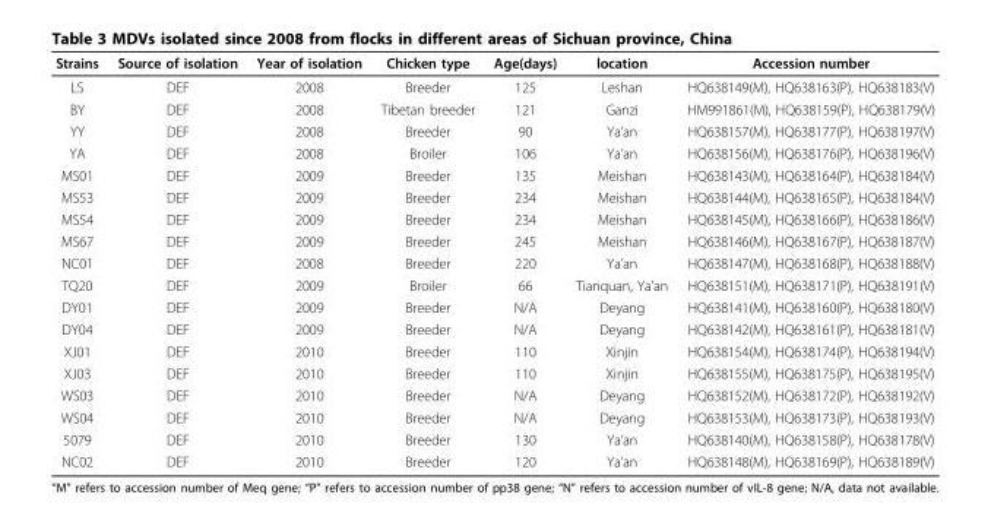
<table><thead><tr><td>Strains</td><td>Source of isolation</td><td>Year of isolation</td><td>Chicken type</td><td>Age(days)</td><td>location</td><td>Accession number</td></tr></thead><tbody><tr><td>LS</td><td>DEF</td><td>2008</td><td>Breeder</td><td>125</td><td>Leshan</td><td>HQ638149(M), HQ638163(P), HQ638183(V)</td></tr><tr><td>BY</td><td>DEF</td><td>2008</td><td>Tibetan breeder</td><td>121</td><td>Ganzi</td><td>HM991861(M), HQ638159(P), HQ638179(V)</td></tr><tr><td>YY</td><td>DEF</td><td>2008</td><td>Breeder</td><td>90</td><td>Ya’an</td><td>HQ638157(M), HQ638177(P), HQ638197(V)</td></tr><tr><td>YA</td><td>DEF</td><td>2008</td><td>Broiler</td><td>106</td><td>Ya’an</td><td>HQ638156(M), HQ638176(P), HQ638196(V)</td></tr><tr><td>MS01</td><td>DEF</td><td>2009</td><td>Breeder</td><td>135</td><td>Meishan</td><td>HQ638143(M), HQ638164(P), HQ638184(V)</td></tr><tr><td>MS53</td><td>DEF</td><td>2009</td><td>Breeder</td><td>234</td><td>Meishan</td><td>HQ638144(M), HQ638165(P), HQ638184(V)</td></tr><tr><td>MS54</td><td>DEF</td><td>2009</td><td>Breeder</td><td>234</td><td>Meishan</td><td>HQ638145(M), HQ638166(P), HQ638186(V)</td></tr><tr><td>MS67</td><td>DEF</td><td>2009</td><td>Breeder</td><td>245</td><td>Meishan</td><td>HQ638146(M), HQ638167(P), HQ638187(V)</td></tr><tr><td>NC01</td><td>DEF</td><td>2008</td><td>Breeder</td><td>220</td><td>Ya’an</td><td>HQ638147(M), HQ638168(P), HQ638188(V)</td></tr><tr><td>TQ20</td><td>DEF</td><td>2009</td><td>Broiler</td><td>66</td><td>Tianquan, Ya’an</td><td>HQ638151(M), HQ638171(P), HQ638191(V)</td></tr><tr><td>DY01</td><td>DEF</td><td>2009</td><td>Breeder</td><td>N/A</td><td>Deyang</td><td>HQ638141(M), HQ638160(P), HQ638180(V)</td></tr><tr><td>DY04</td><td>DEF</td><td>2009</td><td>Breeder</td><td>N/A</td><td>Deyang</td><td>HQ638142(M), HQ638161(P), HQ638181(V)</td></tr><tr><td>XJ01</td><td>DEF</td><td>2010</td><td>Breeder</td><td>110</td><td>Xinjin</td><td>HQ638154(M), HQ638174(P), HQ638194(V)</td></tr><tr><td>XJ03</td><td>DEF</td><td>2010</td><td>Breeder</td><td>110</td><td>Xinjin</td><td>HQ638155(M), HQ638175(P), HQ638195(V)</td></tr><tr><td>WS03</td><td>DEF</td><td>2010</td><td>Breeder</td><td>N/A</td><td>Deyang</td><td>HQ638152(M), HQ638172(P), HQ638192(V)</td></tr><tr><td>WS04</td><td>DEF</td><td>2010</td><td>Breeder</td><td>N/A</td><td>Deyang</td><td>HQ638153(M), HQ638173(P), HQ638193(V)</td></tr><tr><td>5079</td><td>DEF</td><td>2010</td><td>Breeder</td><td>130</td><td>Ya’an</td><td>HQ638140(M), HQ638158(P), HQ638178(V)</td></tr><tr><td>NC02</td><td>DEF</td><td>2010</td><td>Breeder</td><td>120</td><td>Ya’an</td><td>HQ638148(M), HQ638169(P), HQ638189(V)</td></tr></tbody></table>